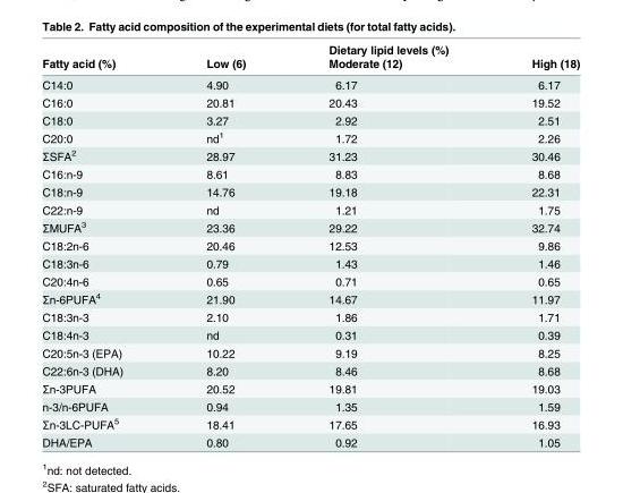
<table><thead><tr><td rowspan="2">Fatty acid (%)</td><td rowspan="2">Low (6)</td><td rowspan="2">Dietary lipid levels (%) Moderate (12)</td><td rowspan="2">High (18)</td></tr><tr></tr></thead><tbody><tr><td>C14:0</td><td>4.90</td><td>6.17</td><td>6.17</td></tr><tr><td>C16:0</td><td>20.81</td><td>20.43</td><td>19.52</td></tr><tr><td>C18:0</td><td>3.27</td><td>2.92</td><td>2.51</td></tr><tr><td>C20:0</td><td>nd<sup>1</sup></td><td>1.72</td><td>2.26</td></tr><tr><td>ΣSFA<sup>2</sup></td><td>28.97</td><td>31.23</td><td>30.46</td></tr><tr><td>C16:n-9</td><td>8.61</td><td>8.83</td><td>8.68</td></tr><tr><td>C18:n-9</td><td>14.76</td><td>19.18</td><td>22.31</td></tr><tr><td>C22:n-9</td><td>nd</td><td>1.21</td><td>1.75</td></tr><tr><td>ΣMUFA<sup>3</sup></td><td>23.36</td><td>29.22</td><td>32.74</td></tr><tr><td>C18:2n-6</td><td>20.46</td><td>12.53</td><td>9.86</td></tr><tr><td>C18:3n-6</td><td>0.79</td><td>1.43</td><td>1.46</td></tr><tr><td>C20:4n-6</td><td>0.65</td><td>0.71</td><td>0.65</td></tr><tr><td>Σn-6PUFA<sup>4</sup></td><td>21.90</td><td>14.67</td><td>11.97</td></tr><tr><td>C18:3n-3</td><td>2.10</td><td>1.86</td><td>1.71</td></tr><tr><td>C18:4n-3</td><td>nd</td><td>0.31</td><td>0.39</td></tr><tr><td>C20:5n-3 (EPA)</td><td>10.22</td><td>9.19</td><td>8.25</td></tr><tr><td>C22:6n-3 (DHA)</td><td>8.20</td><td>8.46</td><td>8.68</td></tr><tr><td>Σn-3PUFA</td><td>20.52</td><td>19.81</td><td>19.03</td></tr><tr><td>n-3/n-6PUFA</td><td>0.94</td><td>1.35</td><td>1.59</td></tr><tr><td>Σn-3LC-PUFA<sup>5</sup></td><td>18.41</td><td>17.65</td><td>16.93</td></tr><tr><td>DHA/EPA</td><td>0.80</td><td>0.92</td><td>1.05</td></tr></tbody></table>